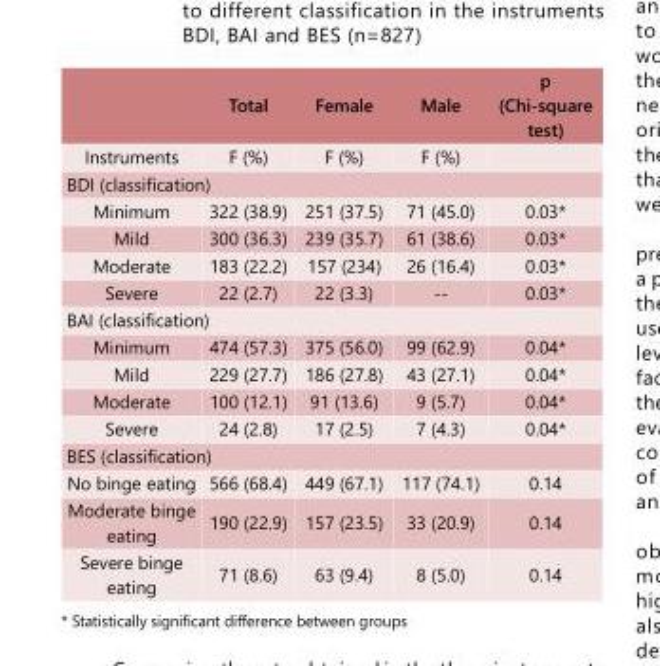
<table><thead><tr><td></td><td>Total</td><td>Female</td><td>Male</td><td>p (Chi-square test)</td></tr></thead><tbody><tr><td>Instruments</td><td>F (%)</td><td>F (%)</td><td>F (%)</td><td rowspan="2"></td></tr><tr><td colspan="4">BDI (classification)</td></tr><tr><td>Minimum</td><td>322 (38.9)</td><td>251 (37.5)</td><td>71 (45.0)</td><td>0.03*</td></tr><tr><td>Mild</td><td>300 (36.3)</td><td>239 (35.7)</td><td>61 (38.6)</td><td>0.03*</td></tr><tr><td>Moderate</td><td>183 (22.2)</td><td>157 (234)</td><td>26 (16.4)</td><td>0.03*</td></tr><tr><td>Severe</td><td>22 (2.7)</td><td>22 (3.3)</td><td>--</td><td rowspan="2">0.03*</td></tr><tr><td colspan="4">BAI (classification)</td></tr><tr><td>Minimum</td><td>474 (57.3)</td><td>375 (56.0)</td><td>99 (62.9)</td><td>0.04*</td></tr><tr><td>Mild</td><td>229 (27.7)</td><td>186 (27.8)</td><td>43 (27.1)</td><td>0.04*</td></tr><tr><td>Moderate</td><td>100 (12.1)</td><td>91 (13.6)</td><td>9 (5.7)</td><td>0.04*</td></tr><tr><td>Severe</td><td>24 (2.8)</td><td>17 (2.5)</td><td>7 (4.3)</td><td rowspan="2">0.04*</td></tr><tr><td colspan="4">BES (classification)</td></tr><tr><td>No binge eating</td><td>566 (68.4)</td><td>449 (67.1)</td><td>117 (74.1)</td><td>0.14</td></tr><tr><td>Moderate binge eating</td><td>190 (22.9)</td><td>157 (23.5)</td><td>33 (20.9)</td><td>0.14</td></tr><tr><td>Severe binge eating</td><td>71 (8.6)</td><td>63 (9.4)</td><td>8 (5.0)</td><td>0.14</td></tr></tbody></table>